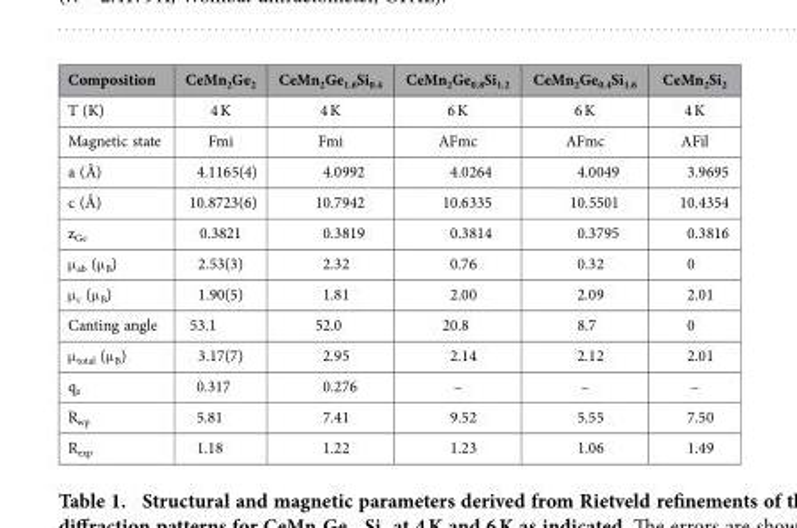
<table><thead><tr><td>Composition</td><td>CeMn<sub>2</sub>Ge<sub>2</sub></td><td>CeMn<sub>2</sub>Ge<sub>1.6</sub>Si<sub>0.4</sub></td><td>CeMn<sub>2</sub>Ge<sub>0.8</sub>Si<sub>1.2</sub></td><td>CeMn<sub>2</sub>Ge<sub>0.4</sub>Si<sub>1.6</sub></td><td>CeMn<sub>2</sub>Si<sub>2</sub></td></tr></thead><tbody><tr><td>T (K)</td><td>4 K</td><td>4 K</td><td>6 K</td><td>6 K</td><td>4 K</td></tr><tr><td>Magnetic state</td><td>Fmi</td><td>Fmi</td><td>AFmc</td><td>AFmc</td><td>AFil</td></tr><tr><td>a (Å)</td><td>4.1165(4)</td><td>4.0992</td><td>4.0264</td><td>4.0049</td><td>3.9695</td></tr><tr><td>c (Å)</td><td>10.8723(6)</td><td>10.7942</td><td>10.6335</td><td>10.5501</td><td>10.4354</td></tr><tr><td>z<sub>Ge</sub></td><td>0.3821</td><td>0.3819</td><td>0.3814</td><td>0.3795</td><td>0.3816</td></tr><tr><td>μ <sub>ab</sub> (μ <sub>B</sub>)</td><td>2.53(3)</td><td>2.32</td><td>0.76</td><td>0.32</td><td>0</td></tr><tr><td>μ <sub>c</sub> (μ <sub>B</sub>)</td><td>1.90(5)</td><td>1.81</td><td>2.00</td><td>2.09</td><td>2.01</td></tr><tr><td>Canting angle</td><td>53.1</td><td>52.0</td><td>20.8</td><td>8.7</td><td>0</td></tr><tr><td>μ <sub>total</sub> (μ <sub>B</sub>)</td><td>3.17(7)</td><td>2.95</td><td>2.14</td><td>2.12</td><td>2.01</td></tr><tr><td>q<sub>z</sub></td><td>0.317</td><td>0.276</td><td>–</td><td>–</td><td>–</td></tr><tr><td>R<sub>wp</sub></td><td>5.81</td><td>7.41</td><td>9.52</td><td>5.55</td><td>7.50</td></tr><tr><td>R<sub>exp</sub></td><td>1.18</td><td>1.22</td><td>1.23</td><td>1.06</td><td>1.49</td></tr></tbody></table>